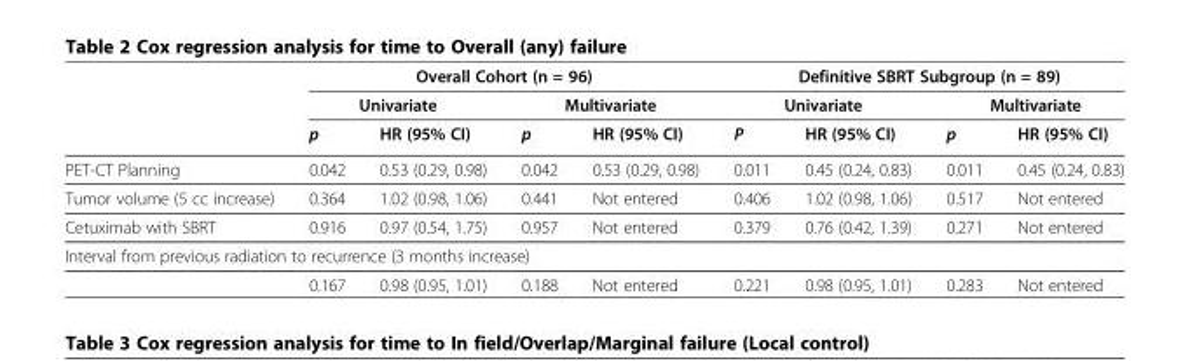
<table><thead><tr><td rowspan="3"></td><td colspan="4">Overall Cohort (n = 96)</td><td colspan="4">Definitive SBRT Subgroup (n = 89)</td></tr><tr><td colspan="2">Univariate</td><td colspan="2">Multivariate</td><td colspan="2">Univariate</td><td colspan="2">Multivariate</td></tr><tr><td>p</td><td>HR (95% CI)</td><td>p</td><td>HR (95% CI)</td><td>P</td><td>HR (95% CI)</td><td>p</td><td>HR (95% CI)</td></tr></thead><tbody><tr><td>PET-CT Planning</td><td>0.042</td><td>0.53 (0.29, 0.98)</td><td>0.042</td><td>0.53 (0.29, 0.98)</td><td>0.011</td><td>0.45 (0.24, 0.83)</td><td>0.011</td><td>0.45 (0.24, 0.83)</td></tr><tr><td>Tumor volume (5 cc increase)</td><td>0.364</td><td>1.02 (0.98, 1.06)</td><td>0.441</td><td>Not entered</td><td>0.406</td><td>1.02 (0.98, 1.06)</td><td>0.517</td><td>Not entered</td></tr><tr><td>Cetuximab with SBRT</td><td>0.916</td><td>0.97 (0.54, 1.75)</td><td>0.957</td><td>Not entered</td><td>0.379</td><td>0.76 (0.42, 1.39)</td><td>0.271</td><td>Not entered</td></tr><tr><td colspan="9">Interval from previous radiation to recurrence (3 months increase)</td></tr><tr><td></td><td>0.167</td><td>0.98 (0.95, 1.01)</td><td>0.188</td><td>Not entered</td><td>0.221</td><td>0.98 (0.95, 1.01)</td><td>0.283</td><td>Not entered</td></tr></tbody></table>